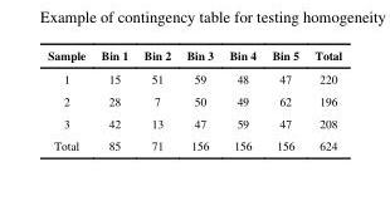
<table><thead><tr><td>Sample</td><td>Bin 1</td><td>Bin 2</td><td>Bin 3</td><td>Bin 4</td><td>Bin 5</td><td>Total</td></tr></thead><tbody><tr><td>1</td><td>15</td><td>51</td><td>59</td><td>48</td><td>47</td><td>220</td></tr><tr><td>2</td><td>28</td><td>7</td><td>50</td><td>49</td><td>62</td><td>196</td></tr><tr><td>3</td><td>42</td><td>13</td><td>47</td><td>59</td><td>47</td><td>208</td></tr><tr><td>Total</td><td>85</td><td>71</td><td>156</td><td>156</td><td>156</td><td>624</td></tr></tbody></table>